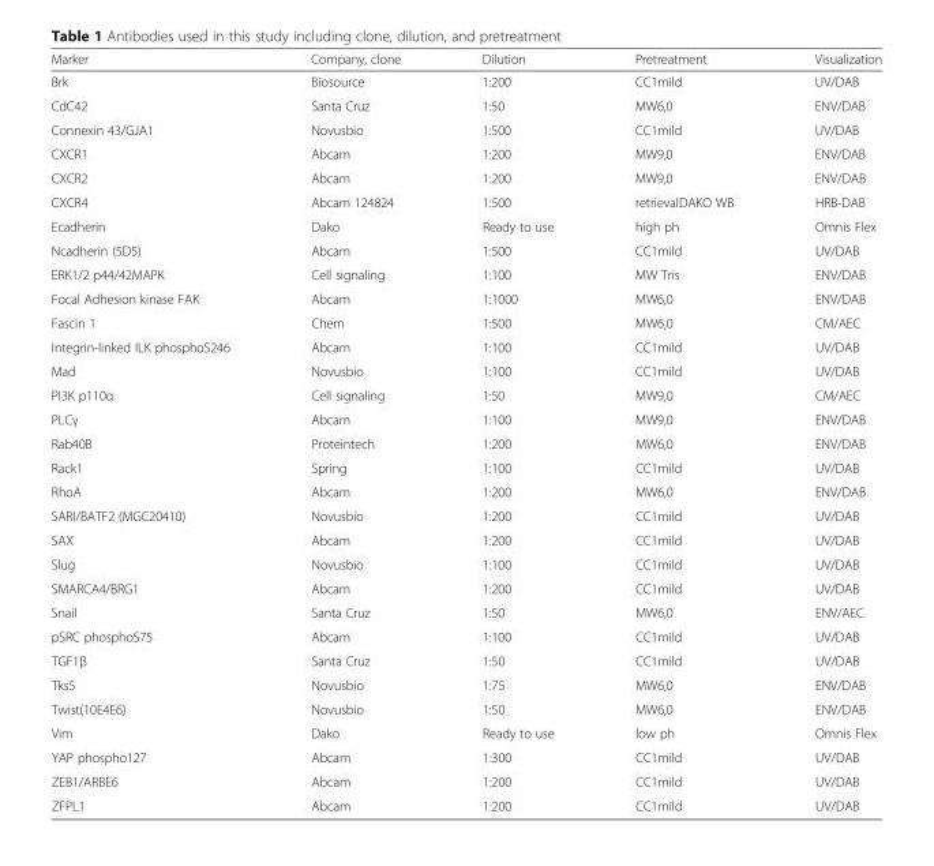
<table><thead><tr><td>Marker</td><td>Company, clone</td><td>Dilution</td><td>Pretreatment</td><td>Visualization</td></tr></thead><tbody><tr><td>Brk</td><td>Biosource</td><td>1:200</td><td>CC1mild</td><td>UV/DAB</td></tr><tr><td>CdC42</td><td>Santa Cruz</td><td>1:50</td><td>MW6,0</td><td>ENV/DAB</td></tr><tr><td>Connexin 43/GJA1</td><td>Novusbio</td><td>1:500</td><td>CC1mild</td><td>UV/DAB</td></tr><tr><td>CXCR1</td><td>Abcam</td><td>1:200</td><td>MW9,0</td><td>ENV/DAB</td></tr><tr><td>CXCR2</td><td>Abcam</td><td>1:200</td><td>MW9,0</td><td>ENV/DAB</td></tr><tr><td>CXCR4</td><td>Abcam 124824</td><td>1:500</td><td>retrievalDAKO WB</td><td>HRB-DAB</td></tr><tr><td>Ecadherin</td><td>Dako</td><td>Ready to use</td><td>high ph</td><td>Omnis Flex</td></tr><tr><td>Ncadherin (5D5)</td><td>Abcam</td><td>1:500</td><td>CC1mild</td><td>UV/DAB</td></tr><tr><td>ERK1/2 p44/42MAPK</td><td>Cell signaling</td><td>1:100</td><td>MW Tris</td><td>ENV/DAB</td></tr><tr><td>Focal Adhesion kinase FAK</td><td>Abcam</td><td>1:1000</td><td>MW6,0</td><td>ENV/DAB</td></tr><tr><td>Fascin 1</td><td>Chem</td><td>1:500</td><td>MW6,0</td><td>CM/AEC</td></tr><tr><td>Integrin-linked ILK phosphoS246</td><td>Abcam</td><td>1:100</td><td>CC1mild</td><td>UV/DAB</td></tr><tr><td>Mad</td><td>Novusbio</td><td>1:100</td><td>CC1mild</td><td>UV/DAB</td></tr><tr><td>PI3K p110α</td><td>Cell signaling</td><td>1:50</td><td>MW9,0</td><td>CM/AEC</td></tr><tr><td>PLCγ</td><td>Abcam</td><td>1:100</td><td>MW9,0</td><td>ENV/DAB</td></tr><tr><td>Rab40B</td><td>Proteintech</td><td>1:200</td><td>MW6,0</td><td>ENV/DAB</td></tr><tr><td>Rack1</td><td>Spring</td><td>1:100</td><td>CC1mild</td><td>UV/DAB</td></tr><tr><td>RhoA</td><td>Abcam</td><td>1:200</td><td>MW6,0</td><td>ENV/DAB</td></tr><tr><td>SARI/BATF2 (MGC20410)</td><td>Novusbio</td><td>1:200</td><td>CC1mild</td><td>UV/DAB</td></tr><tr><td>SAX</td><td>Abcam</td><td>1:200</td><td>CC1mild</td><td>UV/DAB</td></tr><tr><td>Slug</td><td>Novusbio</td><td>1:100</td><td>CC1mild</td><td>UV/DAB</td></tr><tr><td>SMARCA4/BRG1</td><td>Abcam</td><td>1:200</td><td>CC1mild</td><td>UV/DAB</td></tr><tr><td>Snail</td><td>Santa Cruz</td><td>1:50</td><td>MW6,0</td><td>ENV/AEC</td></tr><tr><td>pSRC phosphoS75</td><td>Abcam</td><td>1:100</td><td>CC1mild</td><td>UV/DAB</td></tr><tr><td>TGF1β</td><td>Santa Cruz</td><td>1:50</td><td>CC1mild</td><td>UV/DAB</td></tr><tr><td>Tks5</td><td>Novusbio</td><td>1:75</td><td>MW6,0</td><td>ENV/DAB</td></tr><tr><td>Twist(10E4E6)</td><td>Novusbio</td><td>1:50</td><td>MW6,0</td><td>ENV/DAB</td></tr><tr><td>Vim</td><td>Dako</td><td>Ready to use</td><td>low ph</td><td>Omnis Flex</td></tr><tr><td>YAP phospho127</td><td>Abcam</td><td>1:300</td><td>CC1mild</td><td>UV/DAB</td></tr><tr><td>ZEB1/ARBE6</td><td>Abcam</td><td>1:200</td><td>CC1mild</td><td>UV/DAB</td></tr><tr><td>ZFPL1</td><td>Abcam</td><td>1:200</td><td>CC1mild</td><td>UV/DAB</td></tr></tbody></table>